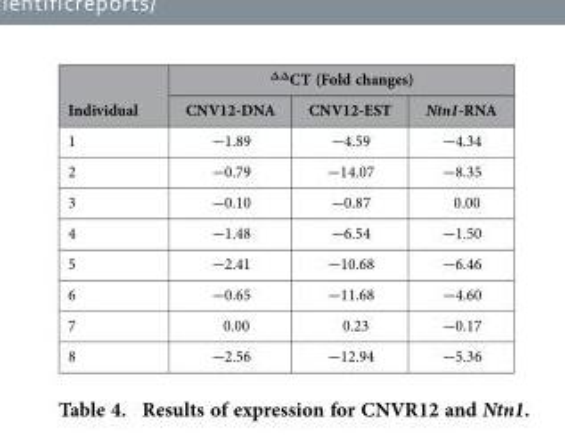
<table><thead><tr><td rowspan="2">Individual</td><td colspan="3"><sup>ΔΔ</sup>CT (Fold changes)</td></tr><tr><td>CNV12-DNA</td><td>CNV12-EST</td><td>Ntn1-RNA</td></tr></thead><tbody><tr><td>1</td><td>−1.89</td><td>−4.59</td><td>−4.34</td></tr><tr><td>2</td><td>−0.79</td><td>−14.07</td><td>−8.35</td></tr><tr><td>3</td><td>−0.10</td><td>−0.87</td><td>0.00</td></tr><tr><td>4</td><td>−1.48</td><td>−6.54</td><td>−1.50</td></tr><tr><td>5</td><td>−2.41</td><td>−10.68</td><td>−6.46</td></tr><tr><td>6</td><td>−0.65</td><td>−11.68</td><td>−4.60</td></tr><tr><td>7</td><td>0.00</td><td>0.23</td><td>−0.17</td></tr><tr><td>8</td><td>−2.56</td><td>−12.94</td><td>−5.36</td></tr></tbody></table>